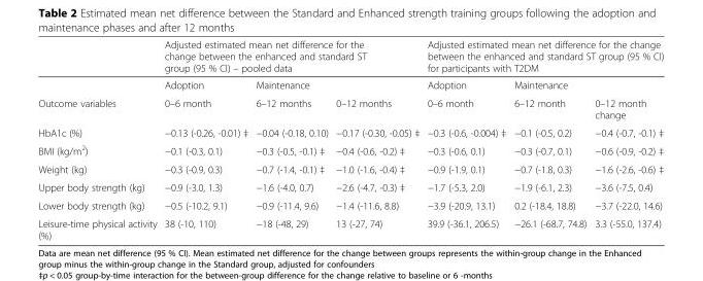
<table><thead><tr><td rowspan="2"></td><td colspan="3">Adjusted estimated mean net difference for the change between the enhanced and standard ST group (95 % CI) – pooled data</td><td colspan="3">Adjusted estimated mean net difference for the change between the enhanced and standard ST group (95 % CI) for participants with T2DM</td></tr><tr><td>Adoption</td><td>Maintenance</td><td></td><td>Adoption</td><td>Maintenance</td><td></td></tr></thead><tbody><tr><td>Outcome variables</td><td>0–6 month</td><td>6–12 months</td><td>0–12 months</td><td>0–6 month</td><td>6–12 month</td><td>0–12 month change</td></tr><tr><td>HbA1c (%)</td><td>−0.13 (-0.26, -0.01) ‡</td><td>−0.04 (-0.18, 0.10)</td><td>−0.17 (-0.30, -0.05) ‡</td><td>−0.3 (-0.6, -0.004) ‡</td><td>−0.1 (-0.5, 0.2)</td><td>−0.4 (-0.7, -0.1) ‡</td></tr><tr><td>BMI (kg/m<sup>2</sup>)</td><td>−0.1 (-0.3, 0.1)</td><td>−0.3 (-0.5, -0.1) ‡</td><td>−0.4 (-0.6, -0.2) ‡</td><td>−0.3 (-0.6, 0.1)</td><td>−0.3 (-0.7, 0.1)</td><td>−0.6 (-0.9, -0.2) ‡</td></tr><tr><td>Weight (kg)</td><td>−0.3 (-0.9, 0.3)</td><td>−0.7 (-1.4, -0.1) ‡</td><td>−1.0 (-1.6, -0.4) ‡</td><td>−0.9 (-1.9, 0.1)</td><td>−0.7 (-1.8, 0.3)</td><td>−1.6 (-2.6, -0.6) ‡</td></tr><tr><td>Upper body strength (kg)</td><td>−0.9 (-3.0, 1.3)</td><td>−1.6 (-4.0, 0.7)</td><td>−2.6 (-4.7, -0.3) ‡</td><td>−1.7 (-5.3, 2.0)</td><td>−1.9 (-6.1, 2.3)</td><td>−3.6 (-7.5, 0.4)</td></tr><tr><td>Lower body strength (kg)</td><td>−0.5 (-10.2, 9.1)</td><td>−0.9 (-11.4, 9.6)</td><td>−1.4 (-11.6, 8.8)</td><td>−3.9 (-20.9, 13.1)</td><td>0.2 (-18.4, 18.8)</td><td>−3.7 (-22.0, 14.6)</td></tr><tr><td>Leisure-time physical activity (%)</td><td>38 (-10, 110)</td><td>−18 (-48, 29)</td><td>13 (-27, 74)</td><td>39.9 (-36.1, 206.5)</td><td>−26.1 (-68.7, 74.8)</td><td>3.3 (-55.0, 137.4)</td></tr></tbody></table>